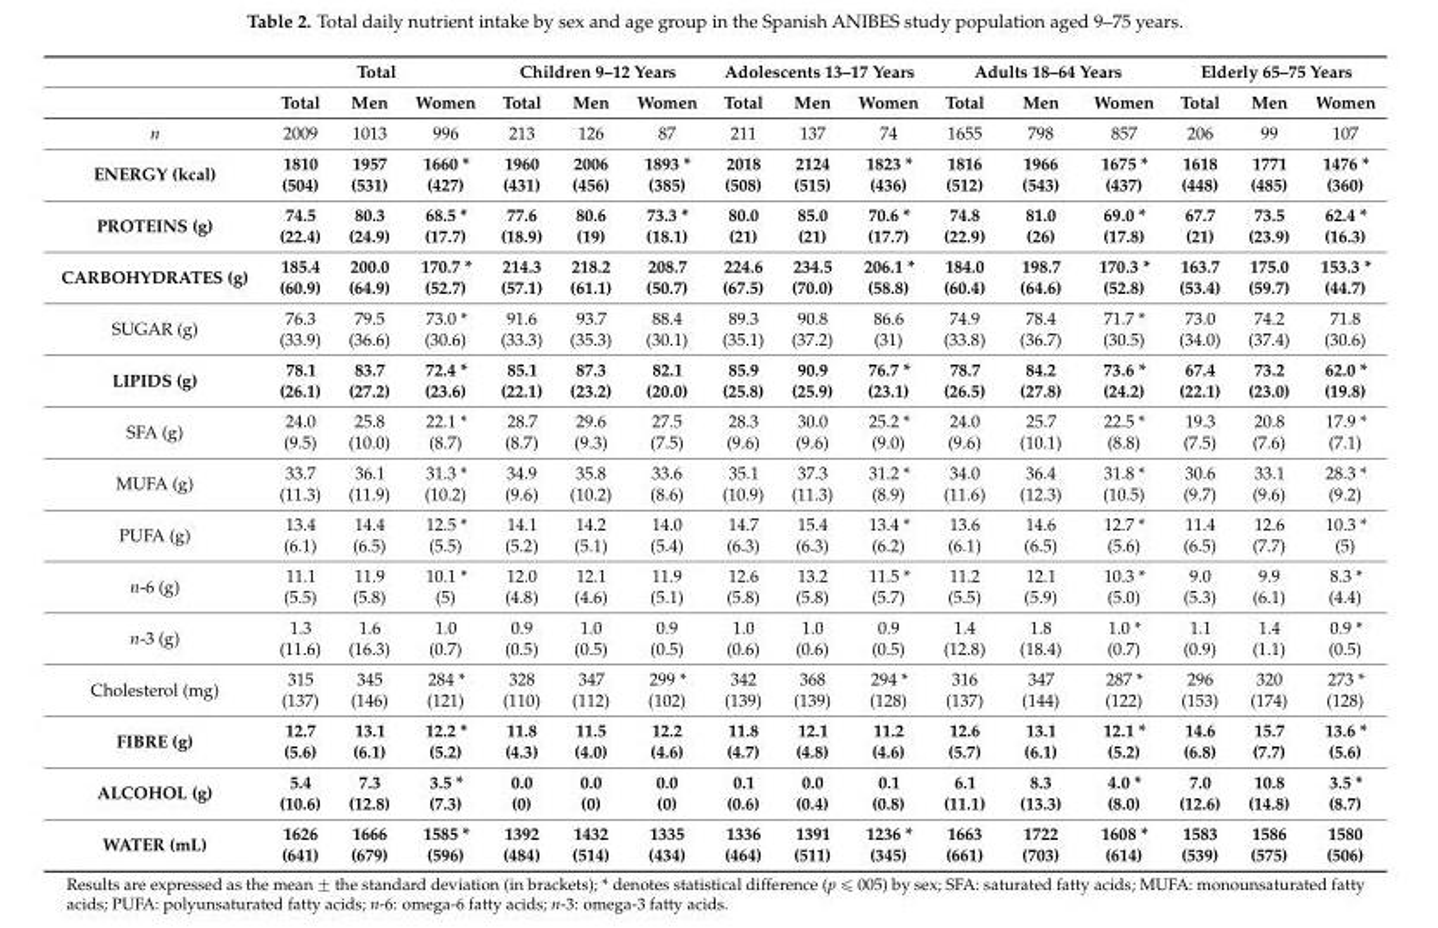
<table><thead><tr><td rowspan="2"></td><td colspan="3">Total</td><td colspan="3">Children 9–12 Years</td><td colspan="3">Adolescents 13–17 Years</td><td colspan="3">Adults 18–64 Years</td><td colspan="3">Elderly 65–75 Years</td></tr><tr><td>Total</td><td>Men</td><td>Women</td><td>Total</td><td>Men</td><td>Women</td><td>Total</td><td>Men</td><td>Women</td><td>Total</td><td>Men</td><td>Women</td><td>Total</td><td>Men</td><td>Women</td></tr></thead><tbody><tr><td>n</td><td>2009</td><td>1013</td><td>996</td><td>213</td><td>126</td><td>87</td><td>211</td><td>137</td><td>74</td><td>1655</td><td>798</td><td>857</td><td>206</td><td>99</td><td>107</td></tr><tr><td>ENERGY (kcal)</td><td>1810 (504)</td><td>1957 (531)</td><td>1660 * (427)</td><td>1960 (431)</td><td>2006 (456)</td><td>1893 * (385)</td><td>2018 (508)</td><td>2124 (515)</td><td>1823 * (436)</td><td>1816 (512)</td><td>1966 (543)</td><td>1675 * (437)</td><td>1618 (448)</td><td>1771 (485)</td><td>1476 * (360)</td></tr><tr><td>PROTEINS (g)</td><td>74.5 (22.4)</td><td>80.3 (24.9)</td><td>68.5 * (17.7)</td><td>77.6 (18.9)</td><td>80.6 (19)</td><td>73.3 * (18.1)</td><td>80.0 (21)</td><td>85.0 (21)</td><td>70.6 * (17.7)</td><td>74.8 (22.9)</td><td>81.0 (26)</td><td>69.0 * (17.8)</td><td>67.7 (21)</td><td>73.5 (23.9)</td><td>62.4 * (16.3)</td></tr><tr><td>CARBOHYDRATES (g)</td><td>185.4 (60.9)</td><td>200.0 (64.9)</td><td>170.7 * (52.7)</td><td>214.3 (57.1)</td><td>218.2 (61.1)</td><td>208.7 (50.7)</td><td>224.6 (67.5)</td><td>234.5 (70.0)</td><td>206.1 * (58.8)</td><td>184.0 (60.4)</td><td>198.7 (64.6)</td><td>170.3 * (52.8)</td><td>163.7 (53.4)</td><td>175.0 (59.7)</td><td>153.3 * (44.7)</td></tr><tr><td>SUGAR (g)</td><td>76.3 (33.9)</td><td>79.5 (36.6)</td><td>73.0 * (30.6)</td><td>91.6 (33.3)</td><td>93.7 (35.3)</td><td>88.4 (30.1)</td><td>89.3 (35.1)</td><td>90.8 (37.2)</td><td>86.6 (31)</td><td>74.9 (33.8)</td><td>78.4 (36.7)</td><td>71.7 * (30.5)</td><td>73.0 (34.0)</td><td>74.2 (37.4)</td><td>71.8 (30.6)</td></tr><tr><td>LIPIDS (g)</td><td>78.1 (26.1)</td><td>83.7 (27.2)</td><td>72.4 * (23.6)</td><td>85.1 (22.1)</td><td>87.3 (23.2)</td><td>82.1 (20.0)</td><td>85.9 (25.8)</td><td>90.9 (25.9)</td><td>76.7 * (23.1)</td><td>78.7 (26.5)</td><td>84.2 (27.8)</td><td>73.6 * (24.2)</td><td>67.4 (22.1)</td><td>73.2 (23.0)</td><td>62.0 * (19.8)</td></tr><tr><td>SFA (g)</td><td>24.0 (9.5)</td><td>25.8 (10.0)</td><td>22.1 * (8.7)</td><td>28.7 (8.7)</td><td>29.6 (9.3)</td><td>27.5 (7.5)</td><td>28.3 (9.6)</td><td>30.0 (9.6)</td><td>25.2 * (9.0)</td><td>24.0 (9.6)</td><td>25.7 (10.1)</td><td>22.5 * (8.8)</td><td>19.3 (7.5)</td><td>20.8 (7.6)</td><td>17.9 * (7.1)</td></tr><tr><td>MUFA (g)</td><td>33.7 (11.3)</td><td>36.1 (11.9)</td><td>31.3 * (10.2)</td><td>34.9 (9.6)</td><td>35.8 (10.2)</td><td>33.6 (8.6)</td><td>35.1 (10.9)</td><td>37.3 (11.3)</td><td>31.2 * (8.9)</td><td>34.0 (11.6)</td><td>36.4 (12.3)</td><td>31.8 * (10.5)</td><td>30.6 (9.7)</td><td>33.1 (9.6)</td><td>28.3 * (9.2)</td></tr><tr><td>PUFA (g)</td><td>13.4 (6.1)</td><td>14.4 (6.5)</td><td>12.5 * (5.5)</td><td>14.1 (5.2)</td><td>14.2 (5.1)</td><td>14.0 (5.4)</td><td>14.7 (6.3)</td><td>15.4 (6.3)</td><td>13.4 * (6.2)</td><td>13.6 (6.1)</td><td>14.6 (6.5)</td><td>12.7 * (5.6)</td><td>11.4 (6.5)</td><td>12.6 (7.7)</td><td>10.3 * (5)</td></tr><tr><td>n-6 (g)</td><td>11.1 (5.5)</td><td>11.9 (5.8)</td><td>10.1 * (5)</td><td>12.0 (4.8)</td><td>12.1 (4.6)</td><td>11.9 (5.1)</td><td>12.6 (5.8)</td><td>13.2 (5.8)</td><td>11.5 * (5.7)</td><td>11.2 (5.5)</td><td>12.1 (5.9)</td><td>10.3 * (5.0)</td><td>9.0 (5.3)</td><td>9.9 (6.1)</td><td>8.3 * (4.4)</td></tr><tr><td>n-3 (g)</td><td>1.3 (11.6)</td><td>1.6 (16.3)</td><td>1.0 (0.7)</td><td>0.9 (0.5)</td><td>1.0 (0.5)</td><td>0.9 (0.5)</td><td>1.0 (0.6)</td><td>1.0 (0.6)</td><td>0.9 (0.5)</td><td>1.4 (12.8)</td><td>1.8 (18.4)</td><td>1.0 * (0.7)</td><td>1.1 (0.9)</td><td>1.4 (1.1)</td><td>0.9 * (0.5)</td></tr><tr><td>Cholesterol (mg)</td><td>315 (137)</td><td>345 (146)</td><td>284 * (121)</td><td>328 (110)</td><td>347 (112)</td><td>299 * (102)</td><td>342 (139)</td><td>368 (139)</td><td>294 * (128)</td><td>316 (137)</td><td>347 (144)</td><td>287 * (122)</td><td>296 (153)</td><td>320 (174)</td><td>273 * (128)</td></tr><tr><td>FIBRE (g)</td><td>12.7 (5.6)</td><td>13.1 (6.1)</td><td>12.2 * (5.2)</td><td>11.8 (4.3)</td><td>11.5 (4.0)</td><td>12.2 (4.6)</td><td>11.8 (4.7)</td><td>12.1 (4.8)</td><td>11.2 (4.6)</td><td>12.6 (5.7)</td><td>13.1 (6.1)</td><td>12.1 * (5.2)</td><td>14.6 (6.8)</td><td>15.7 (7.7)</td><td>13.6 * (5.6)</td></tr><tr><td>ALCOHOL (g)</td><td>5.4 (10.6)</td><td>7.3 (12.8)</td><td>3.5 * (7.3)</td><td>0.0 (0)</td><td>0.0 (0)</td><td>0.0 (0)</td><td>0.1 (0.6)</td><td>0.0 (0.4)</td><td>0.1 (0.8)</td><td>6.1 (11.1)</td><td>8.3 (13.3)</td><td>4.0 * (8.0)</td><td>7.0 (12.6)</td><td>10.8 (14.8)</td><td>3.5 * (8.7)</td></tr><tr><td>WATER (mL)</td><td>1626 (641)</td><td>1666 (679)</td><td>1585 * (596)</td><td>1392 (484)</td><td>1432 (514)</td><td>1335 (434)</td><td>1336 (464)</td><td>1391 (511)</td><td>1236 * (345)</td><td>1663 (661)</td><td>1722 (703)</td><td>1608 * (614)</td><td>1583 (539)</td><td>1586 (575)</td><td>1580 (506)</td></tr></tbody></table>